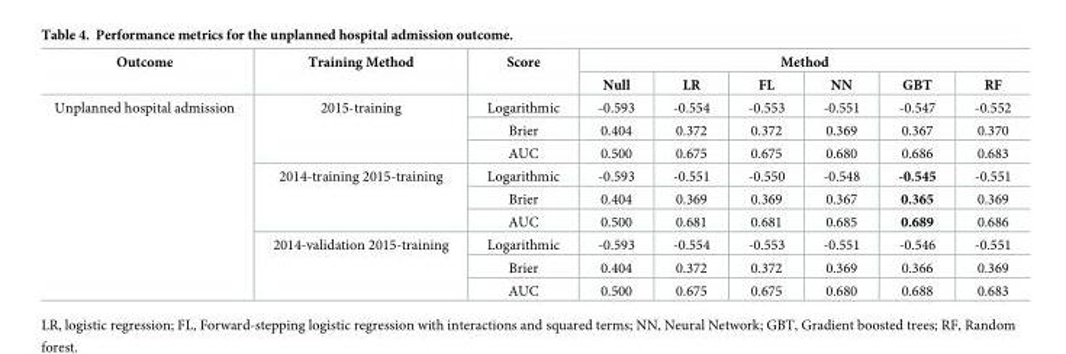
<table><thead><tr><td rowspan="2">Outcome</td><td rowspan="2">Training Method</td><td rowspan="2">Score</td><td colspan="6">Method</td></tr><tr><td>Null</td><td>LR</td><td>FL</td><td>NN</td><td>GBT</td><td>RF</td></tr></thead><tbody><tr><td rowspan="9">Unplanned hospital admission</td><td rowspan="3">2015-training</td><td>Logarithmic</td><td>-0.593</td><td>-0.554</td><td>-0.553</td><td>-0.551</td><td>-0.547</td><td>-0.552</td></tr><tr><td>Brier</td><td>0.404</td><td>0.372</td><td>0.372</td><td>0.369</td><td>0.367</td><td>0.370</td></tr><tr><td>AUC</td><td>0.500</td><td>0.675</td><td>0.675</td><td>0.680</td><td>0.686</td><td>0.683</td></tr><tr><td rowspan="3">2014-training 2015-training</td><td>Logarithmic</td><td>-0.593</td><td>-0.551</td><td>-0.550</td><td>-0.548</td><td>-0.545</td><td>-0.551</td></tr><tr><td>Brier</td><td>0.404</td><td>0.369</td><td>0.369</td><td>0.367</td><td>0.365</td><td>0.369</td></tr><tr><td>AUC</td><td>0.500</td><td>0.681</td><td>0.681</td><td>0.685</td><td>0.689</td><td>0.686</td></tr><tr><td rowspan="3">2014-validation 2015-training</td><td>Logarithmic</td><td>-0.593</td><td>-0.554</td><td>-0.553</td><td>-0.551</td><td>-0.546</td><td>-0.551</td></tr><tr><td>Brier</td><td>0.404</td><td>0.372</td><td>0.372</td><td>0.369</td><td>0.366</td><td>0.369</td></tr><tr><td>AUC</td><td>0.500</td><td>0.675</td><td>0.675</td><td>0.680</td><td>0.688</td><td>0.683</td></tr></tbody></table>